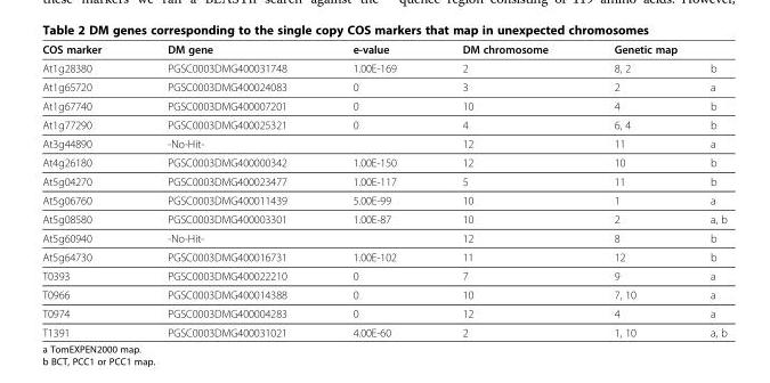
<table><thead><tr><td rowspan="2">COS marker At1g28380</td><td rowspan="2">DM gene PGSC0003DMG400031748</td><td rowspan="2">e-value 1.00E-169</td><td rowspan="2">DM chromosome 2</td><td colspan="2">Genetic map</td></tr><tr><td>8, 2</td><td>b</td></tr></thead><tbody><tr><td>At1g65720</td><td>PGSC0003DMG400024083</td><td>0</td><td>3</td><td>2</td><td>a</td></tr><tr><td>At1g67740</td><td>PGSC0003DMG400007201</td><td>0</td><td>10</td><td>4</td><td>b</td></tr><tr><td>At1g77290</td><td>PGSC0003DMG400025321</td><td>0</td><td>4</td><td>6, 4</td><td>b</td></tr><tr><td>At3g44890</td><td>-No-Hit-</td><td></td><td>12</td><td>11</td><td>a</td></tr><tr><td>At4g26180</td><td>PGSC0003DMG400000342</td><td>1.00E-150</td><td>12</td><td>10</td><td>b</td></tr><tr><td>At5g04270</td><td>PGSC0003DMG400023477</td><td>1.00E-117</td><td>5</td><td>11</td><td>b</td></tr><tr><td>At5g06760</td><td>PGSC0003DMG400011439</td><td>5.00E-99</td><td>10</td><td>1</td><td>a</td></tr><tr><td>At5g08580</td><td>PGSC0003DMG400003301</td><td>1.00E-87</td><td>10</td><td>2</td><td>a, b</td></tr><tr><td>At5g60940</td><td>-No-Hit-</td><td></td><td>12</td><td>8</td><td>b</td></tr><tr><td>At5g64730</td><td>PGSC0003DMG400016731</td><td>1.00E-102</td><td>11</td><td>12</td><td>b</td></tr><tr><td>T0393</td><td>PGSC0003DMG400022210</td><td>0</td><td>7</td><td>9</td><td>a</td></tr><tr><td>T0966</td><td>PGSC0003DMG400014388</td><td>0</td><td>10</td><td>7, 10</td><td>a</td></tr><tr><td>T0974</td><td>PGSC0003DMG400004283</td><td>0</td><td>12</td><td>4</td><td>a</td></tr><tr><td>T1391</td><td>PGSC0003DMG400031021</td><td>4.00E-60</td><td>2</td><td>1, 10</td><td>a, b</td></tr></tbody></table>